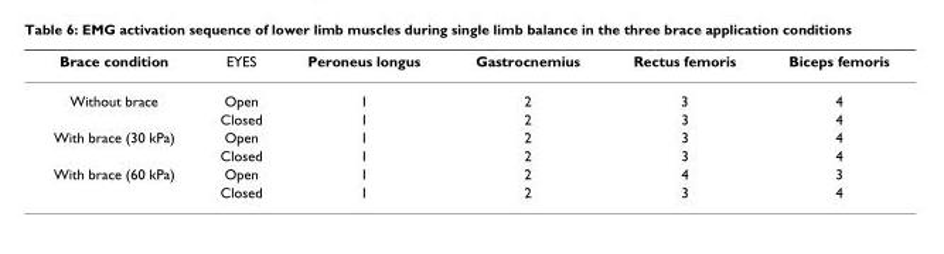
<table><thead><tr><td>Brace condition</td><td>EYES</td><td>Peroneus longus</td><td>Gastrocnemius</td><td>Rectus femoris</td><td>Biceps femoris</td></tr></thead><tbody><tr><td rowspan="2">Without brace</td><td>Open</td><td>1</td><td>2</td><td>3</td><td>4</td></tr><tr><td>Closed</td><td>1</td><td>2</td><td>3</td><td>4</td></tr><tr><td rowspan="2">With brace (30 kPa)</td><td>Open</td><td>1</td><td>2</td><td>3</td><td>4</td></tr><tr><td>Closed</td><td>1</td><td>2</td><td>3</td><td>4</td></tr><tr><td rowspan="2">With brace (60 kPa)</td><td>Open</td><td>1</td><td>2</td><td>4</td><td>3</td></tr><tr><td>Closed</td><td>1</td><td>2</td><td>3</td><td>4</td></tr></tbody></table>